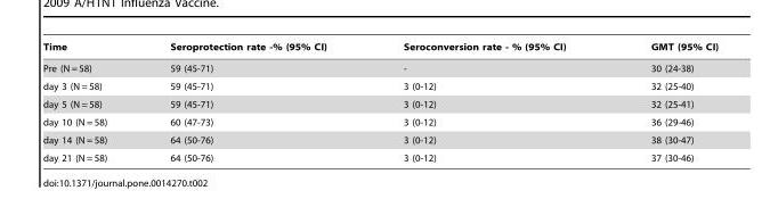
<table><thead><tr><td>Time</td><td>Seroprotection rate -% (95% CI)</td><td>Seroconversion rate - % (95% CI)</td><td>GMT (95% CI)</td></tr></thead><tbody><tr><td>Pre (N = 58)</td><td>59 (45-71)</td><td>-</td><td>30 (24-38)</td></tr><tr><td>day 3 (N = 58)</td><td>59 (45-71)</td><td>3 (0-12)</td><td>32 (25-40)</td></tr><tr><td>day 5 (N = 58)</td><td>59 (45-71)</td><td>3 (0-12)</td><td>32 (25-41)</td></tr><tr><td>day 10 (N = 58)</td><td>60 (47-73)</td><td>3 (0-12)</td><td>36 (29-46)</td></tr><tr><td>day 14 (N = 58)</td><td>64 (50-76)</td><td>3 (0-12)</td><td>38 (30-47)</td></tr><tr><td>day 21 (N = 58)</td><td>64 (50-76)</td><td>3 (0-12)</td><td>37 (30-46)</td></tr></tbody></table>